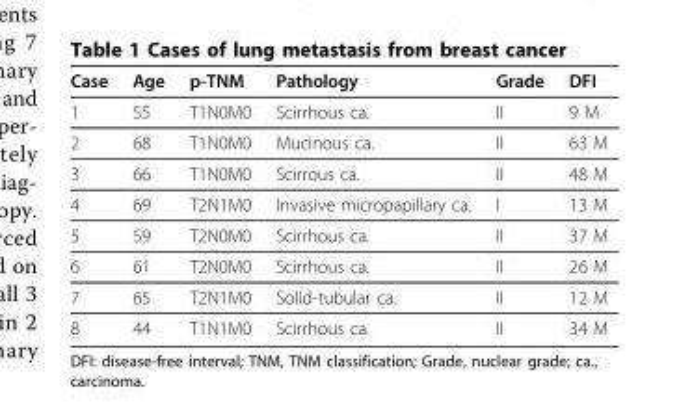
<table><thead><tr><td>Case</td><td>Age</td><td>p-TNM</td><td>Pathology</td><td>Grade</td><td>DFI</td></tr></thead><tbody><tr><td>1</td><td>55</td><td>T1N0M0</td><td>Scirrhous ca.</td><td>II</td><td>9 M</td></tr><tr><td>2</td><td>68</td><td>T1N0M0</td><td>Mucinous ca.</td><td>II</td><td>63 M</td></tr><tr><td>3</td><td>66</td><td>T1N0M0</td><td>Scirrous ca.</td><td>II</td><td>48 M</td></tr><tr><td>4</td><td>69</td><td>T2N1M0</td><td>Invasive micropapillary ca.</td><td>I</td><td>13 M</td></tr><tr><td>5</td><td>59</td><td>T2N0M0</td><td>Scirrhous ca.</td><td>II</td><td>37 M</td></tr><tr><td>6</td><td>61</td><td>T2N0M0</td><td>Scirrhous ca.</td><td>II</td><td>26 M</td></tr><tr><td>7</td><td>65</td><td>T2N1M0</td><td>Solid-tubular ca.</td><td>II</td><td>12 M</td></tr><tr><td>8</td><td>44</td><td>T1N1M0</td><td>Scirrhous ca.</td><td>II</td><td>34 M</td></tr></tbody></table>